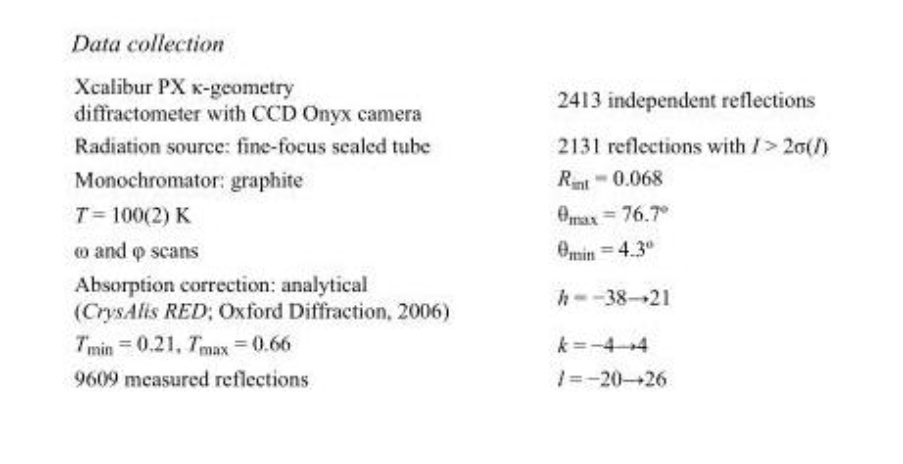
<table><tbody><tr><td>Xcalibur PX κ-geometry diffractometer with CCD Onyx camera</td><td>2413 independent reflections</td></tr><tr><td>Radiation source: fine-focus sealed tube</td><td>2131 reflections with I &gt; 2σ(I)</td></tr><tr><td>Monochromator: graphite</td><td>R<sub>int</sub> = 0.068</td></tr><tr><td>T = 100(2) K</td><td>θ<sub>max</sub> = 76.7º</td></tr><tr><td>ω and φ scans</td><td>θ<sub>min</sub> = 4.3º</td></tr><tr><td>Absorption correction: analytical (CrysAlis RED; Oxford Diffraction, 2006)</td><td>h = −38→21</td></tr><tr><td>T<sub>min</sub> = 0.21, T<sub>max</sub> = 0.66</td><td>k = −4→4</td></tr><tr><td>9609 measured reflections</td><td>l = −20→26</td></tr></tbody></table>